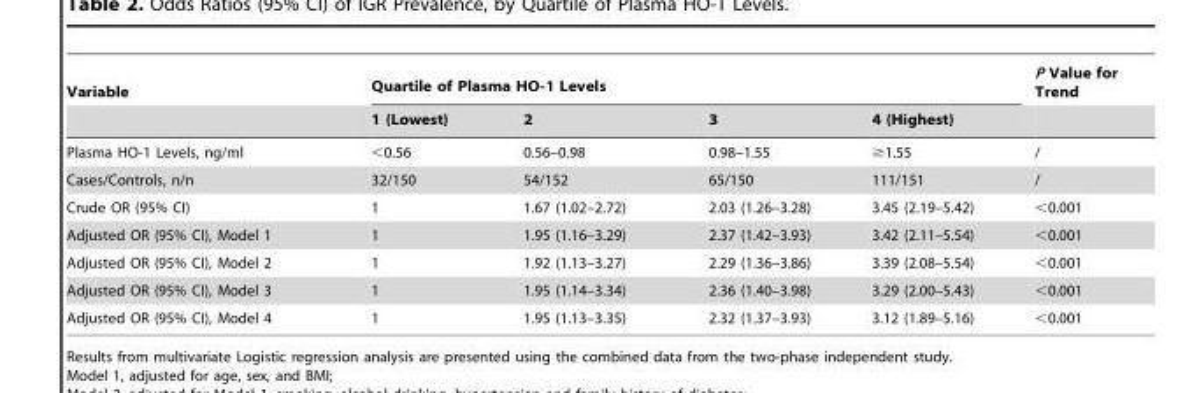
<table><thead><tr><td rowspan="2">Variable</td><td colspan="4">Quartile of Plasma HO-1 Levels</td><td rowspan="2">P Value for Trend</td></tr><tr><td>1 (Lowest)</td><td>2</td><td>3</td><td>4 (Highest)</td></tr></thead><tbody><tr><td>Plasma HO-1 Levels, ng/ml</td><td>&lt;0.56</td><td>0.56–0.98</td><td>0.98–1.55</td><td>≥1.55</td><td>/</td></tr><tr><td>Cases/Controls, n/n</td><td>32/150</td><td>54/152</td><td>65/150</td><td>111/151</td><td>/</td></tr><tr><td>Crude OR (95% CI)</td><td>1</td><td>1.67 (1.02–2.72)</td><td>2.03 (1.26–3.28)</td><td>3.45 (2.19–5.42)</td><td>&lt;0.001</td></tr><tr><td>Adjusted OR (95% CI), Model 1</td><td>1</td><td>1.95 (1.16–3.29)</td><td>2.37 (1.42–3.93)</td><td>3.42 (2.11–5.54)</td><td>&lt;0.001</td></tr><tr><td>Adjusted OR (95% CI), Model 2</td><td>1</td><td>1.92 (1.13–3.27)</td><td>2.29 (1.36–3.86)</td><td>3.39 (2.08–5.54)</td><td>&lt;0.001</td></tr><tr><td>Adjusted OR (95% CI), Model 3</td><td>1</td><td>1.95 (1.14–3.34)</td><td>2.36 (1.40–3.98)</td><td>3.29 (2.00–5.43)</td><td>&lt;0.001</td></tr><tr><td>Adjusted OR (95% CI), Model 4</td><td>1</td><td>1.95 (1.13–3.35)</td><td>2.32 (1.37–3.93)</td><td>3.12 (1.89–5.16)</td><td>&lt;0.001</td></tr></tbody></table>